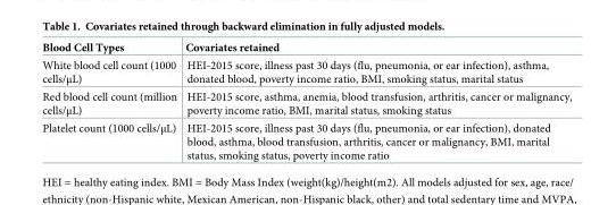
<table><thead><tr><td>Blood Cell Types</td><td>Covariates retained</td></tr></thead><tbody><tr><td>White blood cell count (1000 cells/μL)</td><td>HEI-2015 score, illness past 30 days (flu, pneumonia, or ear infection), asthma, donated blood, poverty income ratio, BMI, smoking status, marital status</td></tr><tr><td>Red blood cell count (million cells/μL)</td><td>HEI-2015 score, asthma, anemia, blood transfusion, arthritis, cancer or malignancy, poverty income ratio, BMI, marital status, smoking status</td></tr><tr><td>Platelet count (1000 cells/μL)</td><td>HEI-2015 score, illness past 30 days (flu, pneumonia, or ear infection), donated blood, asthma, blood transfusion, arthritis, cancer or malignancy, BMI, marital status, smoking status, poverty income ratio</td></tr></tbody></table>